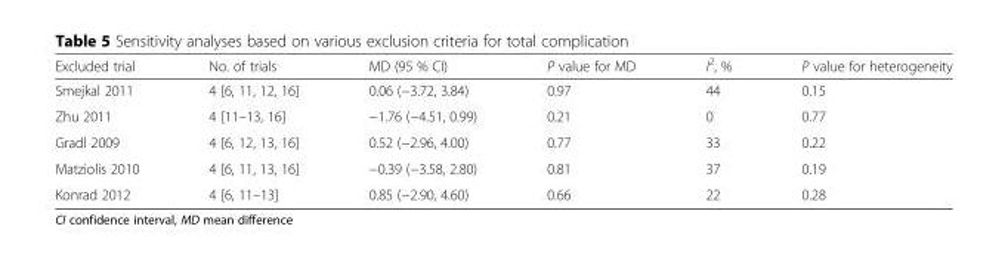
<table><thead><tr><td>Excluded trial</td><td>No. of trials</td><td>MD (95 % CI)</td><td>P value for MD</td><td>I<sup>2</sup>, %</td><td>P value for heterogeneity</td></tr></thead><tbody><tr><td>Smejkal 2011</td><td>4 [6, 11, 12, 16]</td><td>0.06 (−3.72, 3.84)</td><td>0.97</td><td>44</td><td>0.15</td></tr><tr><td>Zhu 2011</td><td>4 [11–13, 16]</td><td>−1.76 (−4.51, 0.99)</td><td>0.21</td><td>0</td><td>0.77</td></tr><tr><td>Gradl 2009</td><td>4 [6, 12, 13, 16]</td><td>0.52 (−2.96, 4.00)</td><td>0.77</td><td>33</td><td>0.22</td></tr><tr><td>Matziolis 2010</td><td>4 [6, 11, 13, 16]</td><td>−0.39 (−3.58, 2.80)</td><td>0.81</td><td>37</td><td>0.19</td></tr><tr><td>Konrad 2012</td><td>4 [6, 11–13]</td><td>0.85 (−2.90, 4.60)</td><td>0.66</td><td>22</td><td>0.28</td></tr></tbody></table>